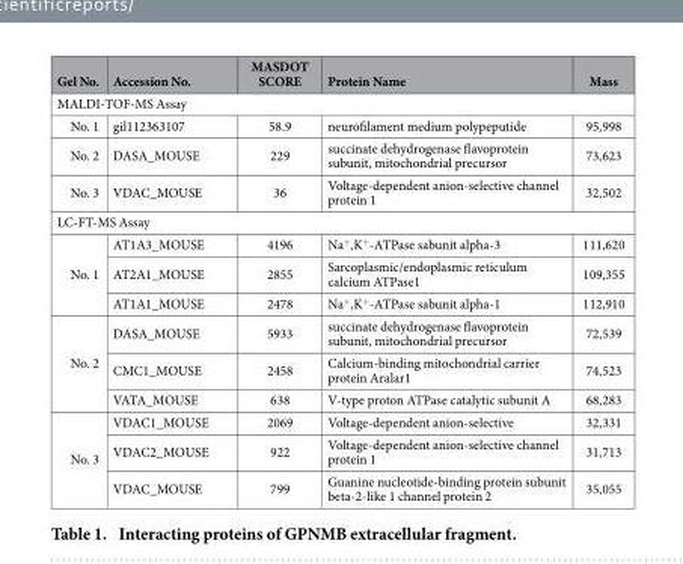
<table><thead><tr><td>Gel No.</td><td>Accession No.</td><td>MASDOT SCORE</td><td>Protein Name</td><td>Mass</td></tr></thead><tbody><tr><td colspan="5">MALDI-TOF-MS Assay</td></tr><tr><td>No. 1</td><td>gil112363107</td><td>58.9</td><td>neurofilament medium polypeputide</td><td>95,998</td></tr><tr><td>No. 2</td><td>DASA_MOUSE</td><td>229</td><td>succinate dehydrogenase flavoprotein subunit, mitochondrial precursor</td><td>73,623</td></tr><tr><td>No. 3</td><td>VDAC_MOUSE</td><td>36</td><td>Voltage-dependent anion-selective channel protein 1</td><td>32,502</td></tr><tr><td colspan="5">LC-FT-MS Assay</td></tr><tr><td rowspan="3">No. 1</td><td>AT1A3_MOUSE</td><td>4196</td><td>Na<sup>+</sup>,K<sup>+</sup>-ATPase sabunit alpha-3</td><td>111,620</td></tr><tr><td>AT2A1_MOUSE</td><td>2855</td><td>Sarcoplasmic/endoplasmic reticulum calcium ATPase1</td><td>109,355</td></tr><tr><td>AT1A1_MOUSE</td><td>2478</td><td>Na<sup>+</sup>,K<sup>+</sup>-ATPase sabunit alpha-1</td><td>112,910</td></tr><tr><td rowspan="3">No. 2</td><td>DASA_MOUSE</td><td>5933</td><td>succinate dehydrogenase flavoprotein subunit, mitochondrial precursor</td><td>72,539</td></tr><tr><td>CMC1_MOUSE</td><td>2458</td><td>Calcium-binding mitochondrial carrier protein Aralar1</td><td>74,523</td></tr><tr><td>VATA_MOUSE</td><td>638</td><td>V-type proton ATPase catalytic subunit A</td><td>68,283</td></tr><tr><td rowspan="3">No. 3</td><td>VDAC1_MOUSE</td><td>2069</td><td>Voltage-dependent anion-selective</td><td>32,331</td></tr><tr><td>VDAC2_MOUSE</td><td>922</td><td>Voltage-dependent anion-selective channel protein 1</td><td>31,713</td></tr><tr><td>VDAC_MOUSE</td><td>799</td><td>Guanine nucleotide-binding protein subunit beta-2-like 1 channel protein 2</td><td>35,055</td></tr></tbody></table>